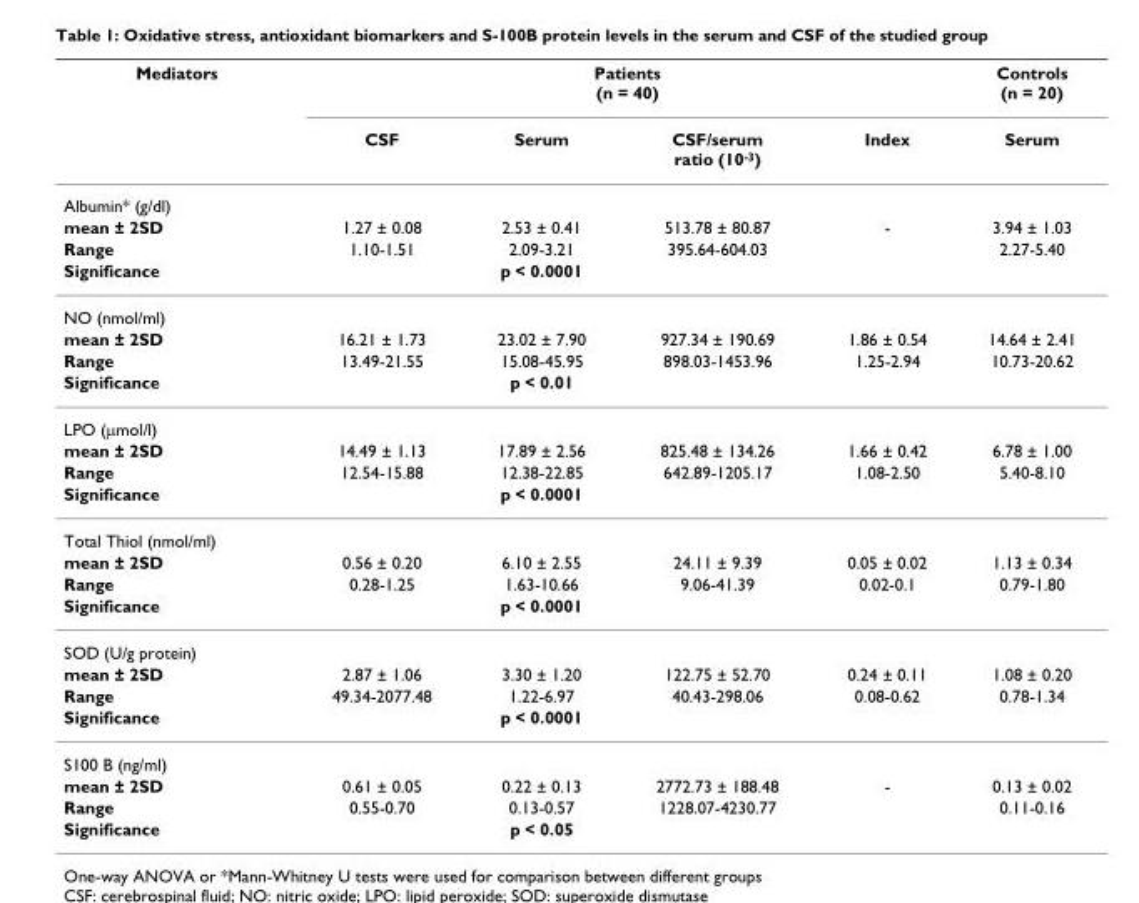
<table><thead><tr><td rowspan="2">Mediators</td><td colspan="4">Patients (n = 40)</td><td rowspan="2">Controls (n = 20) Serum</td></tr><tr><td>CSF</td><td>Serum</td><td>CSF/serum ratio (10<sup>-3</sup>)</td><td>Index</td></tr></thead><tbody><tr><td colspan="6">Albumin* (g/dl)</td></tr><tr><td>mean ± 2SD</td><td>1.27 ± 0.08</td><td>2.53 ± 0.41</td><td>513.78 ± 80.87</td><td>-</td><td>3.94 ± 1.03</td></tr><tr><td>Range</td><td>1.10-1.51</td><td>2.09-3.21</td><td>395.64-604.03</td><td></td><td>2.27-5.40</td></tr><tr><td>Significance</td><td></td><td>p &lt; 0.0001</td><td></td><td></td><td></td></tr><tr><td colspan="6">NO (nmol/ml)</td></tr><tr><td>mean ± 2SD</td><td>16.21 ± 1.73</td><td>23.02 ± 7.90</td><td>927.34 ± 190.69</td><td>1.86 ± 0.54</td><td>14.64 ± 2.41</td></tr><tr><td>Range</td><td>13.49-21.55</td><td>15.08-45.95</td><td>898.03-1453.96</td><td>1.25-2.94</td><td>10.73-20.62</td></tr><tr><td>Significance</td><td></td><td>p &lt; 0.01</td><td></td><td></td><td></td></tr><tr><td colspan="6">LPO (μmol/l)</td></tr><tr><td>mean ± 2SD</td><td>14.49 ± 1.13</td><td>17.89 ± 2.56</td><td>825.48 ± 134.26</td><td>1.66 ± 0.42</td><td>6.78 ± 1.00</td></tr><tr><td>Range</td><td>12.54-15.88</td><td>12.38-22.85</td><td>642.89-1205.17</td><td>1.08-2.50</td><td>5.40-8.10</td></tr><tr><td>Significance</td><td></td><td>p &lt; 0.0001</td><td></td><td></td><td></td></tr><tr><td colspan="6">Total Thiol (nmol/ml)</td></tr><tr><td>mean ± 2SD</td><td>0.56 ± 0.20</td><td>6.10 ± 2.55</td><td>24.11 ± 9.39</td><td>0.05 ± 0.02</td><td>1.13 ± 0.34</td></tr><tr><td>Range</td><td>0.28-1.25</td><td>1.63-10.66</td><td>9.06-41.39</td><td>0.02-0.1</td><td>0.79-1.80</td></tr><tr><td>Significance</td><td></td><td>p &lt; 0.0001</td><td></td><td></td><td></td></tr><tr><td colspan="6">SOD (U/g protein)</td></tr><tr><td>mean ± 2SD</td><td>2.87 ± 1.06</td><td>3.30 ± 1.20</td><td>122.75 ± 52.70</td><td>0.24 ± 0.11</td><td>1.08 ± 0.20</td></tr><tr><td>Range</td><td>49.34-2077.48</td><td>1.22-6.97</td><td>40.43-298.06</td><td>0.08-0.62</td><td>0.78-1.34</td></tr><tr><td>Significance</td><td></td><td>p &lt; 0.0001</td><td></td><td></td><td></td></tr><tr><td colspan="6">S100 B (ng/ml)</td></tr><tr><td>mean ± 2SD</td><td>0.61 ± 0.05</td><td>0.22 ± 0.13</td><td>2772.73 ± 188.48</td><td>-</td><td>0.13 ± 0.02</td></tr><tr><td>Range</td><td>0.55-0.70</td><td>0.13-0.57</td><td>1228.07-4230.77</td><td></td><td>0.11-0.16</td></tr><tr><td>Significance</td><td></td><td>p &lt; 0.05</td><td></td><td></td><td></td></tr></tbody></table>